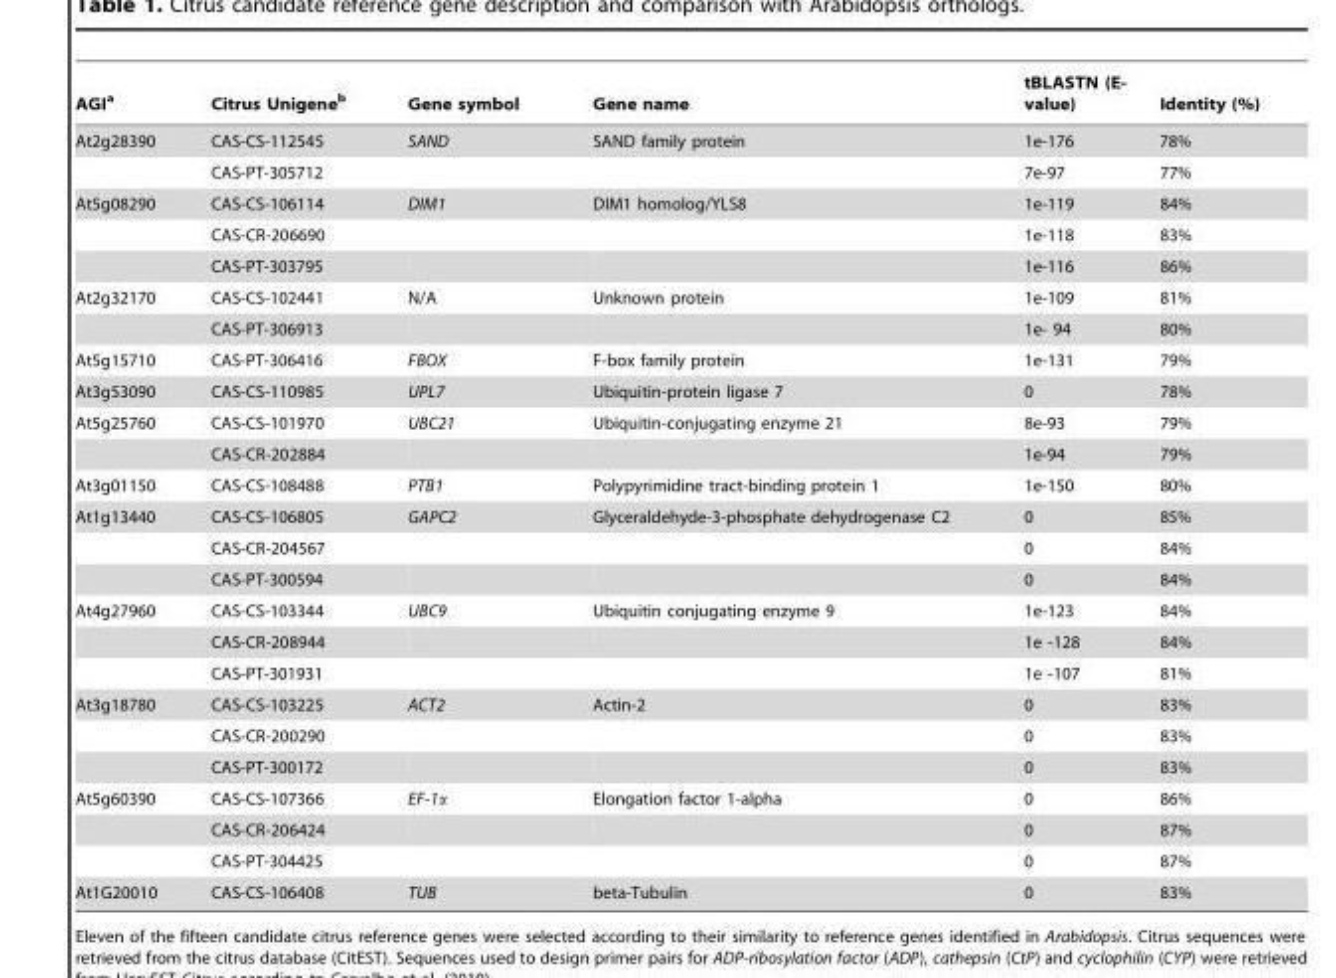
<table><thead><tr><td>AGI<sup>a</sup></td><td>Citrus Unigene<sup>b</sup></td><td>Gene symbol</td><td>Gene name</td><td>tBLASTN (E- value)</td><td>Identity (%)</td></tr></thead><tbody><tr><td rowspan="2">At2g28390</td><td>CAS-CS-112545</td><td>SAND</td><td>SAND family protein</td><td>1e-176</td><td>78%</td></tr><tr><td>CAS-PT-305712</td><td></td><td></td><td>7e-97</td><td>77%</td></tr><tr><td rowspan="3">At5g08290</td><td>CAS-CS-106114</td><td>DIM1</td><td>DIM1 homolog/YLS8</td><td>1e-119</td><td>84%</td></tr><tr><td>CAS-CR-206690</td><td></td><td></td><td>1e-118</td><td>83%</td></tr><tr><td>CAS-PT-303795</td><td></td><td></td><td>1e-116</td><td>86%</td></tr><tr><td rowspan="2">At2g32170</td><td>CAS-CS-102441</td><td>N/A</td><td>Unknown protein</td><td>1e-109</td><td>81%</td></tr><tr><td>CAS-PT-306913</td><td></td><td></td><td>1e- 94</td><td>80%</td></tr><tr><td>At5g15710</td><td>CAS-PT-306416</td><td>FBOX</td><td>F-box family protein</td><td>1e-131</td><td>79%</td></tr><tr><td>At3g53090</td><td>CAS-CS-110985</td><td>UPL7</td><td>Ubiquitin-protein ligase 7</td><td>0</td><td>78%</td></tr><tr><td rowspan="2">At5g25760</td><td>CAS-CS-101970</td><td>UBC21</td><td>Ubiquitin-conjugating enzyme 21</td><td>8e-93</td><td>79%</td></tr><tr><td>CAS-CR-202884</td><td></td><td></td><td>1e-94</td><td>79%</td></tr><tr><td>At3g01150</td><td>CAS-CS-108488</td><td>PTB1</td><td>Polypyrimidine tract-binding protein 1</td><td>1e-150</td><td>80%</td></tr><tr><td rowspan="3">At1g13440</td><td>CAS-CS-106805</td><td>GAPC2</td><td>Glyceraldehyde-3-phosphate dehydrogenase C2</td><td>0</td><td>85%</td></tr><tr><td>CAS-CR-204567</td><td></td><td></td><td>0</td><td>84%</td></tr><tr><td>CAS-PT-300594</td><td></td><td></td><td>0</td><td>84%</td></tr><tr><td rowspan="3">At4g27960</td><td>CAS-CS-103344</td><td>UBC9</td><td>Ubiquitin conjugating enzyme 9</td><td>1e-123</td><td>84%</td></tr><tr><td>CAS-CR-208944</td><td></td><td></td><td>1e -128</td><td>84%</td></tr><tr><td>CAS-PT-301931</td><td></td><td></td><td>1e -107</td><td>81%</td></tr><tr><td rowspan="3">At3g18780</td><td>CAS-CS-103225</td><td>ACT2</td><td>Actin-2</td><td>0</td><td>83%</td></tr><tr><td>CAS-CR-200290</td><td></td><td></td><td>0</td><td>83%</td></tr><tr><td>CAS-PT-300172</td><td></td><td></td><td>0</td><td>83%</td></tr><tr><td rowspan="3">At5g60390</td><td>CAS-CS-107366</td><td>EF-1α</td><td>Elongation factor 1-alpha</td><td>0</td><td>86%</td></tr><tr><td>CAS-CR-206424</td><td></td><td></td><td>0</td><td>87%</td></tr><tr><td>CAS-PT-304425</td><td></td><td></td><td>0</td><td>87%</td></tr><tr><td>At1G20010</td><td>CAS-CS-106408</td><td>TUB</td><td>beta-Tubulin</td><td>0</td><td>83%</td></tr></tbody></table>